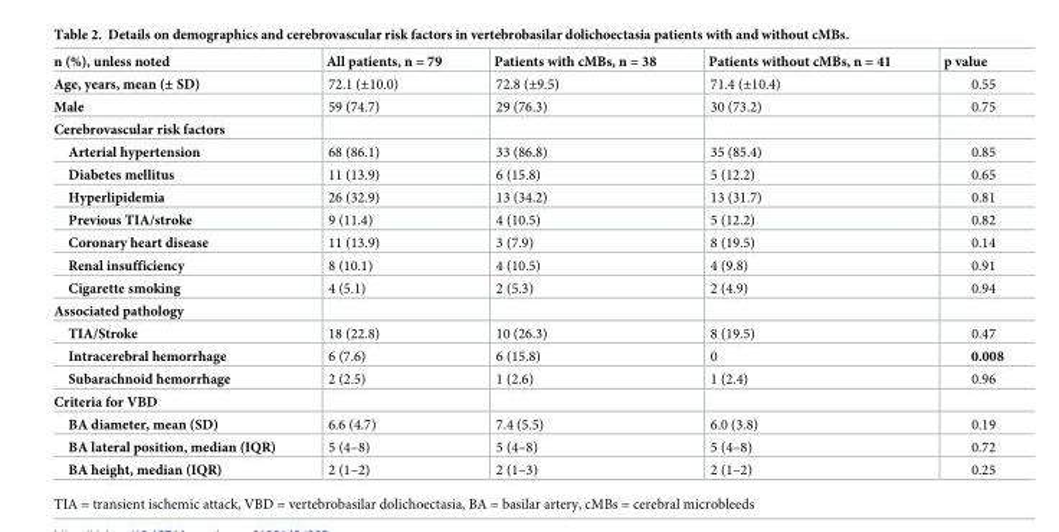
<table><thead><tr><td>n (%), unless noted</td><td>All patients, n = 79</td><td>Patients with cMBs, n = 38</td><td>Patients without cMBs, n = 41</td><td>p value</td></tr></thead><tbody><tr><td>Age, years, mean (± SD)</td><td>72.1 (±10.0)</td><td>72.8 (±9.5)</td><td>71.4 (±10.4)</td><td>0.55</td></tr><tr><td>Male</td><td>59 (74.7)</td><td>29 (76.3)</td><td>30 (73.2)</td><td>0.75</td></tr><tr><td colspan="5">Cerebrovascular risk factors</td></tr><tr><td>Arterial hypertension</td><td>68 (86.1)</td><td>33 (86.8)</td><td>35 (85.4)</td><td>0.85</td></tr><tr><td>Diabetes mellitus</td><td>11 (13.9)</td><td>6 (15.8)</td><td>5 (12.2)</td><td>0.65</td></tr><tr><td>Hyperlipidemia</td><td>26 (32.9)</td><td>13 (34.2)</td><td>13 (31.7)</td><td>0.81</td></tr><tr><td>Previous TIA/stroke</td><td>9 (11.4)</td><td>4 (10.5)</td><td>5 (12.2)</td><td>0.82</td></tr><tr><td>Coronary heart disease</td><td>11 (13.9)</td><td>3 (7.9)</td><td>8 (19.5)</td><td>0.14</td></tr><tr><td>Renal insufficiency</td><td>8 (10.1)</td><td>4 (10.5)</td><td>4 (9.8)</td><td>0.91</td></tr><tr><td>Cigarette smoking</td><td>4 (5.1)</td><td>2 (5.3)</td><td>2 (4.9)</td><td>0.94</td></tr><tr><td colspan="5">Associated pathology</td></tr><tr><td>TIA/Stroke</td><td>18 (22.8)</td><td>10 (26.3)</td><td>8 (19.5)</td><td>0.47</td></tr><tr><td>Intracerebral hemorrhage</td><td>6 (7.6)</td><td>6 (15.8)</td><td>0</td><td>0.008</td></tr><tr><td>Subarachnoid hemorrhage</td><td>2 (2.5)</td><td>1 (2.6)</td><td>1 (2.4)</td><td>0.96</td></tr><tr><td colspan="5">Criteria for VBD</td></tr><tr><td>BA diameter, mean (SD)</td><td>6.6 (4.7)</td><td>7.4 (5.5)</td><td>6.0 (3.8)</td><td>0.19</td></tr><tr><td>BA lateral position, median (IQR)</td><td>5 (4–8)</td><td>5 (4–8)</td><td>5 (4–8)</td><td>0.72</td></tr><tr><td>BA height, median (IQR)</td><td>2 (1–2)</td><td>2 (1–3)</td><td>2 (1–2)</td><td>0.25</td></tr></tbody></table>